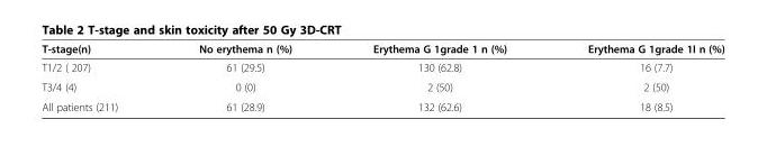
<table><thead><tr><td>T-stage(n)</td><td>No erythema n (%)</td><td>Erythema G 1grade 1 n (%)</td><td>Erythema G 1grade 1I n (%)</td></tr></thead><tbody><tr><td>T1/2 ( 207)</td><td>61 (29.5)</td><td>130 (62.8)</td><td>16 (7.7)</td></tr><tr><td>T3/4 (4)</td><td>0 (0)</td><td>2 (50)</td><td>2 (50)</td></tr><tr><td>All patients (211)</td><td>61 (28.9)</td><td>132 (62.6)</td><td>18 (8.5)</td></tr></tbody></table>